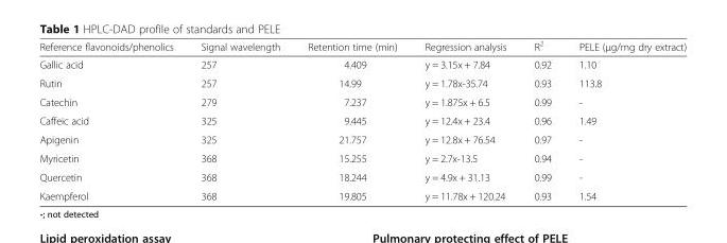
<table><thead><tr><td>Reference flavonoids/phenolics</td><td>Signal wavelength</td><td>Retention time (min)</td><td>Regression analysis</td><td>R<sup>2</sup></td><td>PELE (μg/mg dry extract)</td></tr></thead><tbody><tr><td>Gallic acid</td><td>257</td><td>4.409</td><td>y = 3.15x + 7.84</td><td>0.92</td><td>1.10</td></tr><tr><td>Rutin</td><td>257</td><td>14.99</td><td>y = 1.78x-35.74</td><td>0.93</td><td>113.8</td></tr><tr><td>Catechin</td><td>279</td><td>7.237</td><td>y = 1.875x + 6.5</td><td>0.99</td><td>-</td></tr><tr><td>Caffeic acid</td><td>325</td><td>9.445</td><td>y = 12.4x + 23.4</td><td>0.96</td><td>1.49</td></tr><tr><td>Apigenin</td><td>325</td><td>21.757</td><td>y = 12.8x + 76.54</td><td>0.97</td><td>-</td></tr><tr><td>Myricetin</td><td>368</td><td>15.255</td><td>y = 2.7x-13.5</td><td>0.94</td><td>-</td></tr><tr><td>Quercetin</td><td>368</td><td>18.244</td><td>y = 4.9x + 31.13</td><td>0.99</td><td>-</td></tr><tr><td>Kaempferol</td><td>368</td><td>19.805</td><td>y = 11.78x + 120.24</td><td>0.93</td><td>1.54</td></tr></tbody></table>